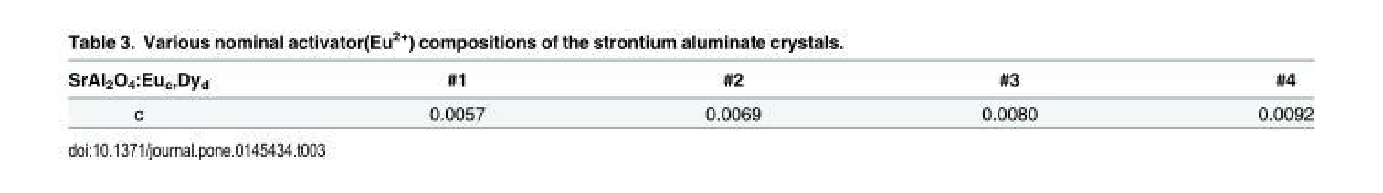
<table><thead><tr><td>SrAl<sub>2</sub>O<sub>4</sub>:Eu<sub>c</sub>,Dy<sub>d</sub></td><td>#1</td><td>#2</td><td>#3</td><td>#4</td></tr></thead><tbody><tr><td>c</td><td>0.0057</td><td>0.0069</td><td>0.0080</td><td>0.0092</td></tr></tbody></table>